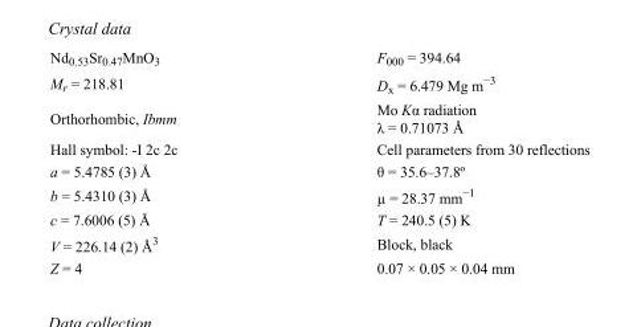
<table><tbody><tr><td>Nd<sub>0.53</sub>Sr<sub>0.47</sub>MnO<sub>3</sub></td><td>F000 = 394.64</td></tr><tr><td>M<sub>r</sub> = 218.81</td><td>D<sub>x</sub> = 6.479 Mg m<sup>−3</sup></td></tr><tr><td>Orthorhombic, Ibmm</td><td>Mo Kα radiation λ = 0.71073 Å</td></tr><tr><td>Hall symbol: -I 2c 2c</td><td>Cell parameters from 30 reflections</td></tr><tr><td>a = 5.4785 (3) Å</td><td>θ = 35.6–37.8º</td></tr><tr><td>b = 5.4310 (3) Å</td><td>µ = 28.37 mm<sup>−1</sup></td></tr><tr><td>c = 7.6006 (5) Å</td><td>T = 240.5 (5) K</td></tr><tr><td>V = 226.14 (2) Å<sup>3</sup></td><td>Block, black</td></tr><tr><td>Z = 4</td><td>0.07 × 0.05 × 0.04 mm</td></tr></tbody></table>